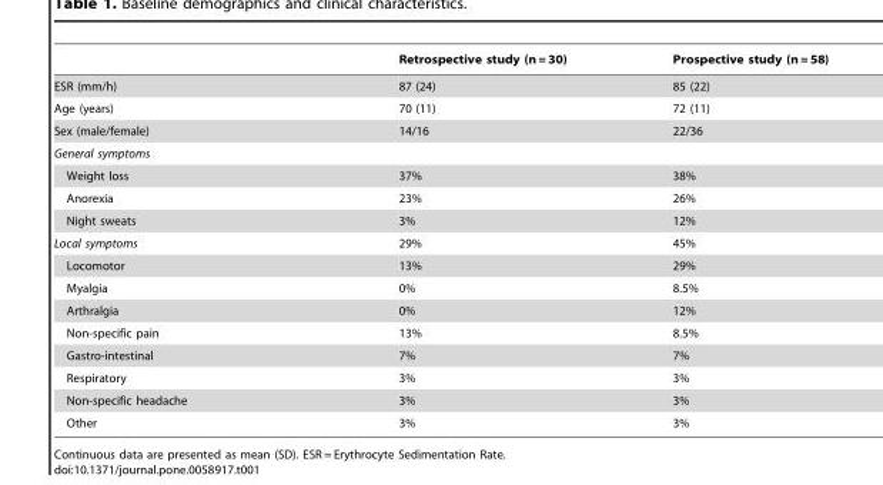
<table><thead><tr><td></td><td>Retrospective study (n = 30)</td><td>Prospective study (n = 58)</td></tr></thead><tbody><tr><td>ESR (mm/h)</td><td>87 (24)</td><td>85 (22)</td></tr><tr><td>Age (years)</td><td>70 (11)</td><td>72 (11)</td></tr><tr><td>Sex (male/female)</td><td>14/16</td><td>22/36</td></tr><tr><td colspan="3">General symptoms</td></tr><tr><td>Weight loss</td><td>37%</td><td>38%</td></tr><tr><td>Anorexia</td><td>23%</td><td>26%</td></tr><tr><td>Night sweats</td><td>3%</td><td>12%</td></tr><tr><td>Local symptoms</td><td>29%</td><td>45%</td></tr><tr><td>Locomotor</td><td>13%</td><td>29%</td></tr><tr><td>Myalgia</td><td>0%</td><td>8.5%</td></tr><tr><td>Arthralgia</td><td>0%</td><td>12%</td></tr><tr><td>Non-specific pain</td><td>13%</td><td>8.5%</td></tr><tr><td>Gastro-intestinal</td><td>7%</td><td>7%</td></tr><tr><td>Respiratory</td><td>3%</td><td>3%</td></tr><tr><td>Non-specific headache</td><td>3%</td><td>3%</td></tr><tr><td>Other</td><td>3%</td><td>3%</td></tr></tbody></table>